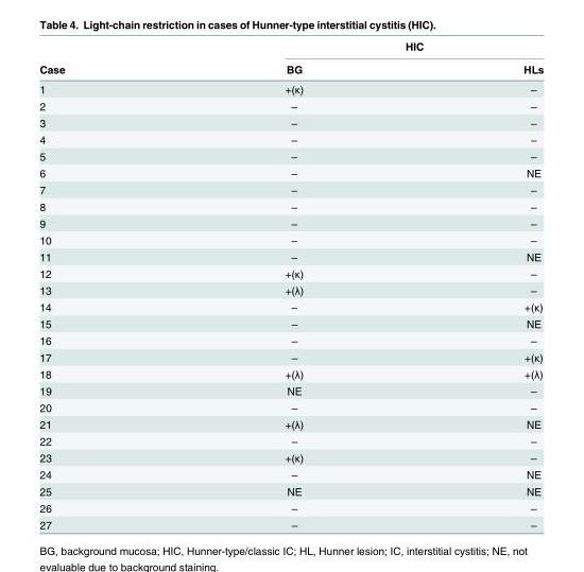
<table><thead><tr><td rowspan="2">Case</td><td colspan="2">HIC</td></tr><tr><td>BG</td><td>HLs</td></tr></thead><tbody><tr><td>1</td><td>+(κ)</td><td>–</td></tr><tr><td>2</td><td>–</td><td>–</td></tr><tr><td>3</td><td>–</td><td>–</td></tr><tr><td>4</td><td>–</td><td>–</td></tr><tr><td>5</td><td>–</td><td>–</td></tr><tr><td>6</td><td>–</td><td>NE</td></tr><tr><td>7</td><td>–</td><td>–</td></tr><tr><td>8</td><td>–</td><td>–</td></tr><tr><td>9</td><td>–</td><td>–</td></tr><tr><td>10</td><td>–</td><td>–</td></tr><tr><td>11</td><td>–</td><td>NE</td></tr><tr><td>12</td><td>+(κ)</td><td>–</td></tr><tr><td>13</td><td>+(λ)</td><td>–</td></tr><tr><td>14</td><td>–</td><td>+(κ)</td></tr><tr><td>15</td><td>–</td><td>NE</td></tr><tr><td>16</td><td>–</td><td>–</td></tr><tr><td>17</td><td>–</td><td>+(κ)</td></tr><tr><td>18</td><td>+(λ)</td><td>+(λ)</td></tr><tr><td>19</td><td>NE</td><td>–</td></tr><tr><td>20</td><td>–</td><td>–</td></tr><tr><td>21</td><td>+(λ)</td><td>NE</td></tr><tr><td>22</td><td>–</td><td>–</td></tr><tr><td>23</td><td>+(κ)</td><td>–</td></tr><tr><td>24</td><td>–</td><td>NE</td></tr><tr><td>25</td><td>NE</td><td>NE</td></tr><tr><td>26</td><td>–</td><td>–</td></tr><tr><td>27</td><td>–</td><td>–</td></tr></tbody></table>